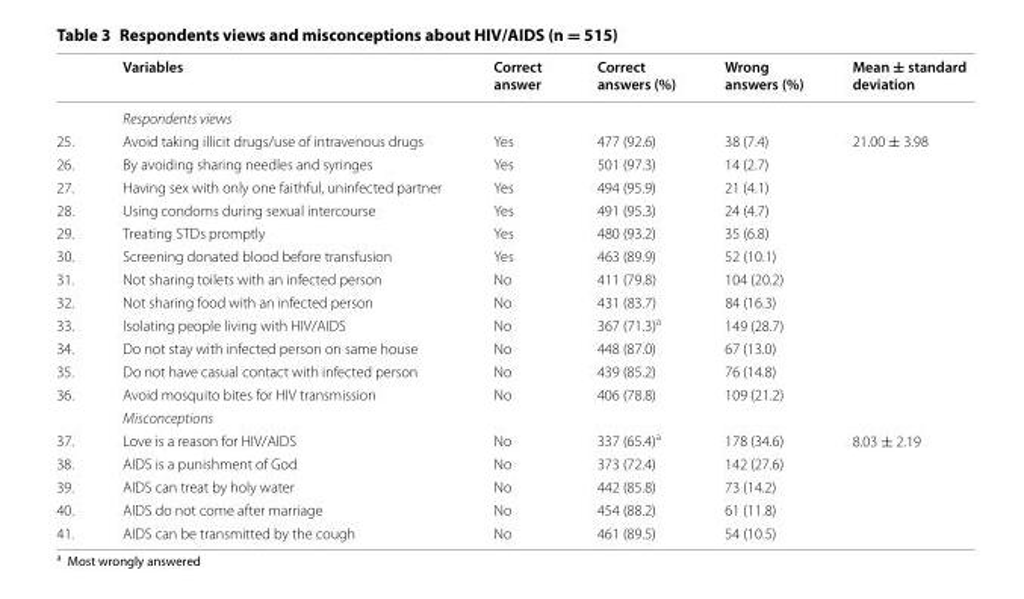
<table><thead><tr><td></td><td>Variables</td><td>Correct answer</td><td>Correct answers (%)</td><td>Wrong answers (%)</td><td>Mean ± standard deviation</td></tr></thead><tbody><tr><td></td><td colspan="4">Respondents views</td><td></td></tr><tr><td>25.</td><td>Avoid taking illicit drugs/use of intravenous drugs</td><td>Yes</td><td>477 (92.6)</td><td>38 (7.4)</td><td rowspan="12">21.00 ± 3.98</td></tr><tr><td>26.</td><td>By avoiding sharing needles and syringes</td><td>Yes</td><td>501 (97.3)</td><td>14 (2.7)</td></tr><tr><td>27.</td><td>Having sex with only one faithful, uninfected partner</td><td>Yes</td><td>494 (95.9)</td><td>21 (4.1)</td></tr><tr><td>28.</td><td>Using condoms during sexual intercourse</td><td>Yes</td><td>491 (95.3)</td><td>24 (4.7)</td></tr><tr><td>29.</td><td>Treating STDs promptly</td><td>Yes</td><td>480 (93.2)</td><td>35 (6.8)</td></tr><tr><td>30.</td><td>Screening donated blood before transfusion</td><td>Yes</td><td>463 (89.9)</td><td>52 (10.1)</td></tr><tr><td>31.</td><td>Not sharing toilets with an infected person</td><td>No</td><td>411 (79.8)</td><td>104 (20.2)</td></tr><tr><td>32.</td><td>Not sharing food with an infected person</td><td>No</td><td>431 (83.7)</td><td>84 (16.3)</td></tr><tr><td>33.</td><td>Isolating people living with HIV/AIDS</td><td>No</td><td>367 (71.3)<sup>a</sup></td><td>149 (28.7)</td></tr><tr><td>34.</td><td>Do not stay with infected person on same house</td><td>No</td><td>448 (87.0)</td><td>67 (13.0)</td></tr><tr><td>35.</td><td>Do not have casual contact with infected person</td><td>No</td><td>439 (85.2)</td><td>76 (14.8)</td></tr><tr><td rowspan="2">36.</td><td>Avoid mosquito bites for HIV transmission</td><td>No</td><td>406 (78.8)</td><td>109 (21.2)</td></tr><tr><td colspan="5">Misconceptions</td></tr><tr><td>37.</td><td>Love is a reason for HIV/AIDS</td><td>No</td><td>337 (65.4)<sup>a</sup></td><td>178 (34.6)</td><td rowspan="5">8.03 ± 2.19</td></tr><tr><td>38.</td><td>AIDS is a punishment of God</td><td>No</td><td>373 (72.4)</td><td>142 (27.6)</td></tr><tr><td>39.</td><td>AIDS can treat by holy water</td><td>No</td><td>442 (85.8)</td><td>73 (14.2)</td></tr><tr><td>40.</td><td>AIDS do not come after marriage</td><td>No</td><td>454 (88.2)</td><td>61 (11.8)</td></tr><tr><td>41.</td><td>AIDS can be transmitted by the cough</td><td>No</td><td>461 (89.5)</td><td>54 (10.5)</td></tr></tbody></table>